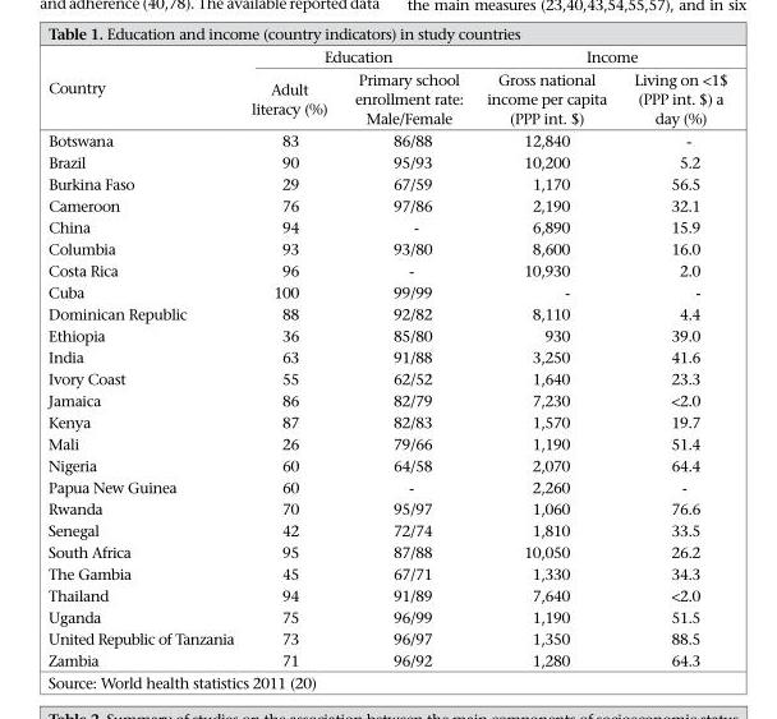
<table><thead><tr><td rowspan="2">Country</td><td colspan="2">Education</td><td colspan="2">Income</td></tr><tr><td>Adult literacy (%)</td><td>Primary school enrollment rate: Male/Female</td><td>Gross national income per capita (PPP int. $)</td><td>Living on &lt;1$ (PPP int. $) a day (%)</td></tr></thead><tbody><tr><td>Botswana</td><td>83</td><td>86/88</td><td>12,840</td><td>-</td></tr><tr><td>Brazil</td><td>90</td><td>95/93</td><td>10,200</td><td>5.2</td></tr><tr><td>Burkina Faso</td><td>29</td><td>67/59</td><td>1,170</td><td>56.5</td></tr><tr><td>Cameroon</td><td>76</td><td>97/86</td><td>2,190</td><td>32.1</td></tr><tr><td>China</td><td>94</td><td>-</td><td>6,890</td><td>15.9</td></tr><tr><td>Columbia</td><td>93</td><td>93/80</td><td>8,600</td><td>16.0</td></tr><tr><td>Costa Rica</td><td>96</td><td>-</td><td>10,930</td><td>2.0</td></tr><tr><td>Cuba</td><td>100</td><td>99/99</td><td>-</td><td>-</td></tr><tr><td>Dominican Republic</td><td>88</td><td>92/82</td><td>8,110</td><td>4.4</td></tr><tr><td>Ethiopia</td><td>36</td><td>85/80</td><td>930</td><td>39.0</td></tr><tr><td>India</td><td>63</td><td>91/88</td><td>3,250</td><td>41.6</td></tr><tr><td>Ivory Coast</td><td>55</td><td>62/52</td><td>1,640</td><td>23.3</td></tr><tr><td>Jamaica</td><td>86</td><td>82/79</td><td>7,230</td><td>&lt;2.0</td></tr><tr><td>Kenya</td><td>87</td><td>82/83</td><td>1,570</td><td>19.7</td></tr><tr><td>Mali</td><td>26</td><td>79/66</td><td>1,190</td><td>51.4</td></tr><tr><td>Nigeria</td><td>60</td><td>64/58</td><td>2,070</td><td>64.4</td></tr><tr><td>Papua New Guinea</td><td>60</td><td>-</td><td>2,260</td><td>-</td></tr><tr><td>Rwanda</td><td>70</td><td>95/97</td><td>1,060</td><td>76.6</td></tr><tr><td>Senegal</td><td>42</td><td>72/74</td><td>1,810</td><td>33.5</td></tr><tr><td>South Africa</td><td>95</td><td>87/88</td><td>10,050</td><td>26.2</td></tr><tr><td>The Gambia</td><td>45</td><td>67/71</td><td>1,330</td><td>34.3</td></tr><tr><td>Thailand</td><td>94</td><td>91/89</td><td>7,640</td><td>&lt;2.0</td></tr><tr><td>Uganda</td><td>75</td><td>96/99</td><td>1,190</td><td>51.5</td></tr><tr><td>United Republic of Tanzania</td><td>73</td><td>96/97</td><td>1,350</td><td>88.5</td></tr><tr><td>Zambia</td><td>71</td><td>96/92</td><td>1,280</td><td>64.3</td></tr></tbody></table>